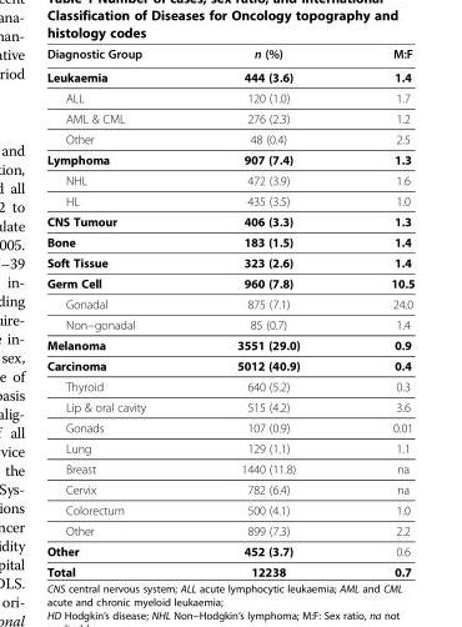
<table><thead><tr><td>Diagnostic Group</td><td>n (%)</td><td>M:F</td></tr></thead><tbody><tr><td>Leukaemia</td><td>444 (3.6)</td><td>1.4</td></tr><tr><td>ALL</td><td>120 (1.0)</td><td>1.7</td></tr><tr><td>AML &amp; CML</td><td>276 (2.3)</td><td>1.2</td></tr><tr><td>Other</td><td>48 (0.4)</td><td>2.5</td></tr><tr><td>Lymphoma</td><td>907 (7.4)</td><td>1.3</td></tr><tr><td>NHL</td><td>472 (3.9)</td><td>1.6</td></tr><tr><td>HL</td><td>435 (3.5)</td><td>1.0</td></tr><tr><td>CNS Tumour</td><td>406 (3.3)</td><td>1.3</td></tr><tr><td>Bone</td><td>183 (1.5)</td><td>1.4</td></tr><tr><td>Soft Tissue</td><td>323 (2.6)</td><td>1.4</td></tr><tr><td>Germ Cell</td><td>960 (7.8)</td><td>10.5</td></tr><tr><td>Gonadal</td><td>875 (7.1)</td><td>24.0</td></tr><tr><td>Non−gonadal</td><td>85 (0.7)</td><td>1.4</td></tr><tr><td>Melanoma</td><td>3551 (29.0)</td><td>0.9</td></tr><tr><td>Carcinoma</td><td>5012 (40.9)</td><td>0.4</td></tr><tr><td>Thyroid</td><td>640 (5.2)</td><td>0.3</td></tr><tr><td>Lip &amp; oral cavity</td><td>515 (4.2)</td><td>3.6</td></tr><tr><td>Gonads</td><td>107 (0.9)</td><td>0.01</td></tr><tr><td>Lung</td><td>129 (1.1)</td><td>1.1</td></tr><tr><td>Breast</td><td>1440 (11.8)</td><td>na</td></tr><tr><td>Cervix</td><td>782 (6.4)</td><td>na</td></tr><tr><td>Colorectum</td><td>500 (4.1)</td><td>1.0</td></tr><tr><td>Other</td><td>899 (7.3)</td><td>2.2</td></tr><tr><td>Other</td><td>452 (3.7)</td><td>0.6</td></tr><tr><td>Total</td><td>12238</td><td>0.7</td></tr></tbody></table>